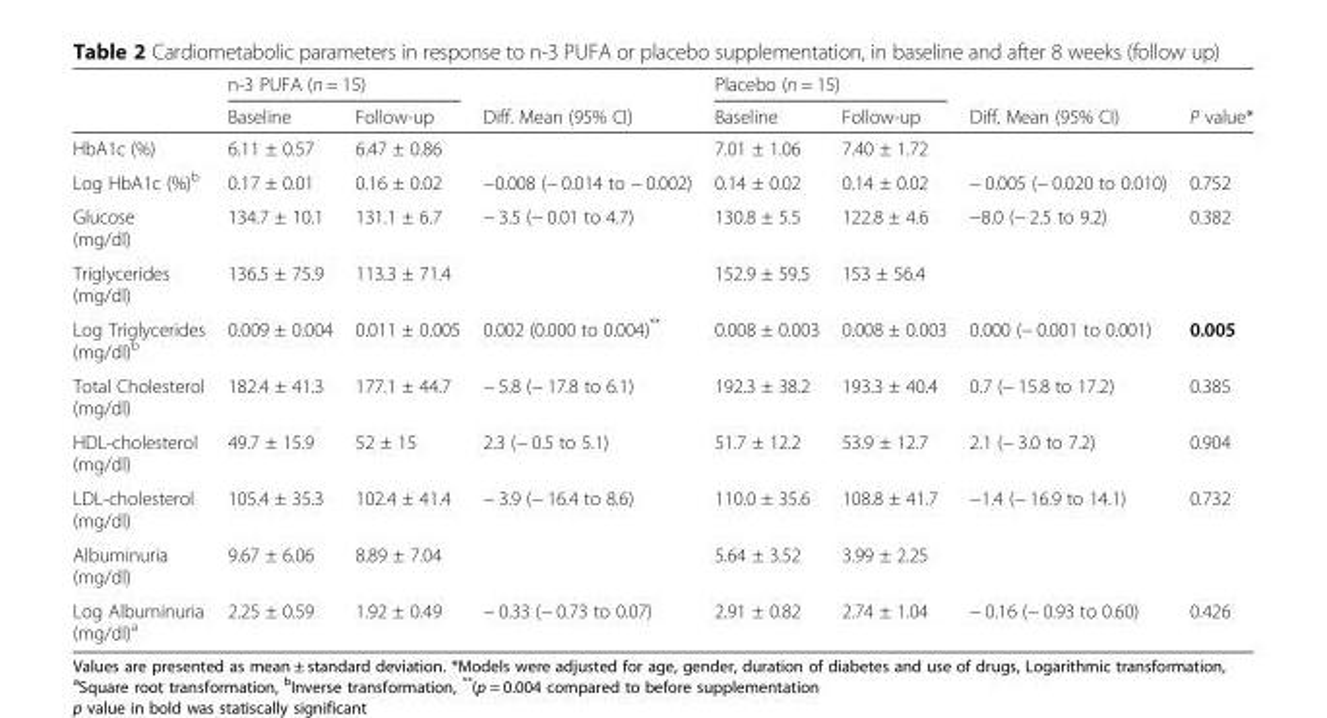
<table><thead><tr><td rowspan="2"></td><td colspan="2">n-3 PUFA (n = 15)</td><td rowspan="2">Diff. Mean (95% CI)</td><td colspan="2">Placebo (n = 15)</td><td rowspan="2">Diff. Mean (95% CI)</td><td rowspan="2">P value*</td></tr><tr><td>Baseline</td><td>Follow-up</td><td>Baseline</td><td>Follow-up</td></tr></thead><tbody><tr><td>HbA1c (%)</td><td>6.11 ± 0.57</td><td>6.47 ± 0.86</td><td></td><td>7.01 ± 1.06</td><td>7.40 ± 1.72</td><td></td><td></td></tr><tr><td>Log HbA1c (%)<sup>b</sup></td><td>0.17 ± 0.01</td><td>0.16 ± 0.02</td><td>−0.008 (− 0.014 to − 0.002)</td><td>0.14 ± 0.02</td><td>0.14 ± 0.02</td><td>− 0.005 (− 0.020 to 0.010)</td><td>0.752</td></tr><tr><td>Glucose (mg/dl)</td><td>134.7 ± 10.1</td><td>131.1 ± 6.7</td><td>− 3.5 (− 0.01 to 4.7)</td><td>130.8 ± 5.5</td><td>122.8 ± 4.6</td><td>−8.0 (− 2.5 to 9.2)</td><td>0.382</td></tr><tr><td>Triglycerides (mg/dl)</td><td>136.5 ± 75.9</td><td>113.3 ± 71.4</td><td></td><td>152.9 ± 59.5</td><td>153 ± 56.4</td><td></td><td></td></tr><tr><td>Log Triglycerides (mg/dl)<sup>b</sup></td><td>0.009 ± 0.004</td><td>0.011 ± 0.005</td><td>0.002 (0.000 to 0.004)**</td><td>0.008 ± 0.003</td><td>0.008 ± 0.003</td><td>0.000 (− 0.001 to 0.001)</td><td>0.005</td></tr><tr><td>Total Cholesterol (mg/dl)</td><td>182.4 ± 41.3</td><td>177.1 ± 44.7</td><td>− 5.8 (− 17.8 to 6.1)</td><td>192.3 ± 38.2</td><td>193.3 ± 40.4</td><td>0.7 (− 15.8 to 17.2)</td><td>0.385</td></tr><tr><td>HDL-cholesterol (mg/dl)</td><td>49.7 ± 15.9</td><td>52 ± 15</td><td>2.3 (− 0.5 to 5.1)</td><td>51.7 ± 12.2</td><td>53.9 ± 12.7</td><td>2.1 (− 3.0 to 7.2)</td><td>0.904</td></tr><tr><td>LDL-cholesterol (mg/dl)</td><td>105.4 ± 35.3</td><td>102.4 ± 41.4</td><td>− 3.9 (− 16.4 to 8.6)</td><td>110.0 ± 35.6</td><td>108.8 ± 41.7</td><td>−1.4 (− 16.9 to 14.1)</td><td>0.732</td></tr><tr><td>Albuminuria (mg/dl)</td><td>9.67 ± 6.06</td><td>8.89 ± 7.04</td><td></td><td>5.64 ± 3.52</td><td>3.99 ± 2.25</td><td></td><td></td></tr><tr><td>Log Albuminuria (mg/dl)<sup>a</sup></td><td>2.25 ± 0.59</td><td>1.92 ± 0.49</td><td>− 0.33 (− 0.73 to 0.07)</td><td>2.91 ± 0.82</td><td>2.74 ± 1.04</td><td>− 0.16 (− 0.93 to 0.60)</td><td>0.426</td></tr></tbody></table>